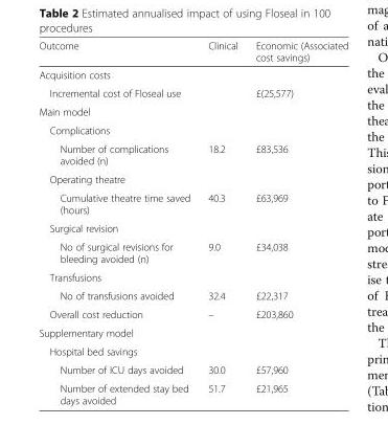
<table><thead><tr><td>Outcome</td><td>Clinical</td><td>Economic (Associated cost savings)</td></tr></thead><tbody><tr><td colspan="3">Acquisition costs</td></tr><tr><td>Incremental cost of Floseal use</td><td></td><td>£(25,577)</td></tr><tr><td colspan="3">Main model</td></tr><tr><td colspan="3">Complications</td></tr><tr><td>Number of complications avoided (n)</td><td>18.2</td><td>£83,536</td></tr><tr><td colspan="3">Operating theatre</td></tr><tr><td>Cumulative theatre time saved (hours)</td><td>40.3</td><td>£63,969</td></tr><tr><td colspan="3">Surgical revision</td></tr><tr><td>No of surgical revisions for bleeding avoided (n)</td><td>9.0</td><td>£34,038</td></tr><tr><td colspan="3">Transfusions</td></tr><tr><td>No of transfusions avoided</td><td>32.4</td><td>£22,317</td></tr><tr><td>Overall cost reduction</td><td>–</td><td>£203,860</td></tr><tr><td colspan="3">Supplementary model</td></tr><tr><td colspan="3">Hospital bed savings</td></tr><tr><td>Number of ICU days avoided</td><td>30.0</td><td>£57,960</td></tr><tr><td>Number of extended stay bed days avoided</td><td>51.7</td><td>£21,965</td></tr></tbody></table>